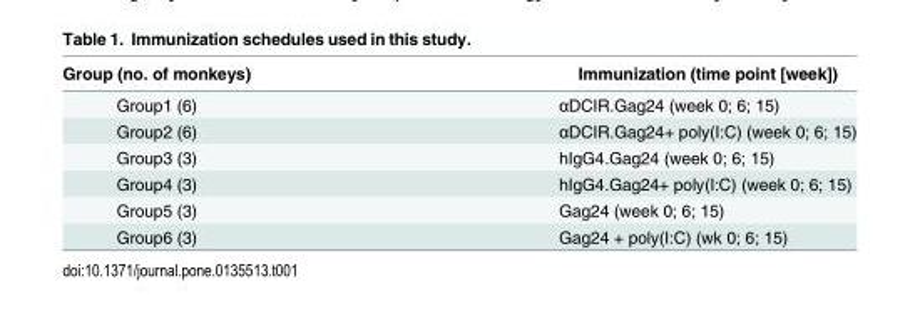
<table><thead><tr><td>Group (no. of monkeys)</td><td>Immunization (time point [week])</td></tr></thead><tbody><tr><td>Group1 (6)</td><td>αDCIR.Gag24 (week 0; 6; 15)</td></tr><tr><td>Group2 (6)</td><td>αDCIR.Gag24+ poly(I:C) (week 0; 6; 15)</td></tr><tr><td>Group3 (3)</td><td>hIgG4.Gag24 (week 0; 6; 15)</td></tr><tr><td>Group4 (3)</td><td>hIgG4.Gag24+ poly(I:C) (week 0; 6; 15)</td></tr><tr><td>Group5 (3)</td><td>Gag24 (week 0; 6; 15)</td></tr><tr><td>Group6 (3)</td><td>Gag24 + poly(I:C) (wk 0; 6; 15)</td></tr></tbody></table>